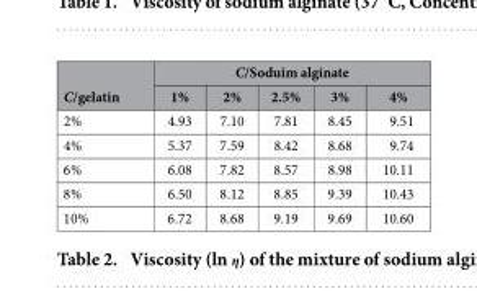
<table><thead><tr><td rowspan="2">C/gelatin</td><td colspan="5">C/Soduim alginate</td></tr><tr><td>1%</td><td>2%</td><td>2.5%</td><td>3%</td><td>4%</td></tr></thead><tbody><tr><td>2%</td><td>4.93</td><td>7.10</td><td>7.81</td><td>8.45</td><td>9.51</td></tr><tr><td>4%</td><td>5.37</td><td>7.59</td><td>8.42</td><td>8.68</td><td>9.74</td></tr><tr><td>6%</td><td>6.08</td><td>7.82</td><td>8.57</td><td>8.98</td><td>10.11</td></tr><tr><td>8%</td><td>6.50</td><td>8.12</td><td>8.85</td><td>9.39</td><td>10.43</td></tr><tr><td>10%</td><td>6.72</td><td>8.68</td><td>9.19</td><td>9.69</td><td>10.60</td></tr></tbody></table>